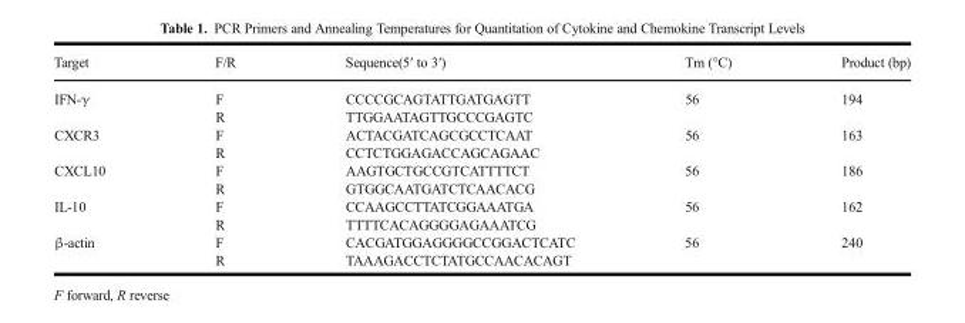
<table><thead><tr><td>Target</td><td>F/R</td><td>Sequence(5′ to 3′)</td><td>Tm (°C)</td><td>Product (bp)</td></tr></thead><tbody><tr><td rowspan="2">IFN-γ</td><td>F</td><td>CCCCGCAGTATTGATGAGTT</td><td rowspan="2">56</td><td rowspan="2">194</td></tr><tr><td>R</td><td>TTGGAATAGTTGCCCGAGTC</td></tr><tr><td rowspan="2">CXCR3</td><td>F</td><td>ACTACGATCAGCGCCTCAAT</td><td rowspan="2">56</td><td rowspan="2">163</td></tr><tr><td>R</td><td>CCTCTGGAGACCAGCAGAAC</td></tr><tr><td rowspan="2">CXCL10</td><td>F</td><td>AAGTGCTGCCGTCATTTTCT</td><td rowspan="2">56</td><td rowspan="2">186</td></tr><tr><td>R</td><td>GTGGCAATGATCTCAACACG</td></tr><tr><td rowspan="2">IL-10</td><td>F</td><td>CCAAGCCTTATCGGAAATGA</td><td rowspan="2">56</td><td rowspan="2">162</td></tr><tr><td>R</td><td>TTTTCACAGGGGAGAAATCG</td></tr><tr><td rowspan="2">β-actin</td><td>F</td><td>CACGATGGAGGGGCCGGACTCATC</td><td rowspan="2">56</td><td rowspan="2">240</td></tr><tr><td>R</td><td>TAAAGACCTCTATGCCAACACAGT</td></tr></tbody></table>